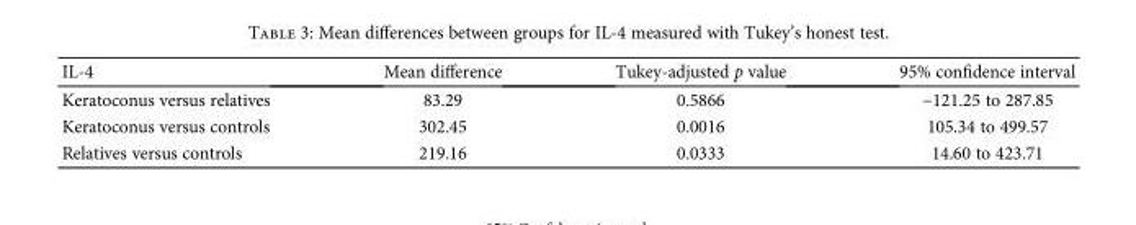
<table><thead><tr><td>IL-4</td><td>Mean difference</td><td>Tukey-adjusted p value</td><td>95% confidence interval</td></tr></thead><tbody><tr><td>Keratoconus versus relatives</td><td>83.29</td><td>0.5866</td><td>−121.25 to 287.85</td></tr><tr><td>Keratoconus versus controls</td><td>302.45</td><td>0.0016</td><td>105.34 to 499.57</td></tr><tr><td>Relatives versus controls</td><td>219.16</td><td>0.0333</td><td>14.60 to 423.71</td></tr></tbody></table>